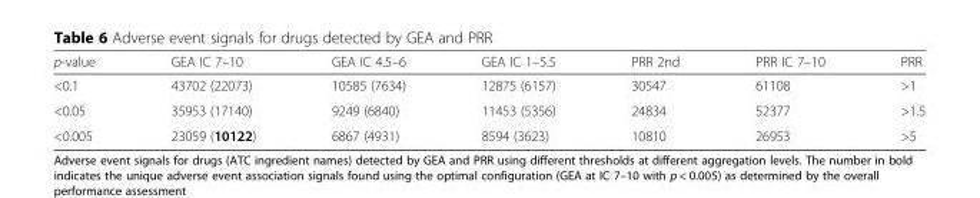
<table><thead><tr><td>p-value</td><td>GEA IC 7–10</td><td>GEA IC 4.5–6</td><td>GEA IC 1–5.5</td><td>PRR 2nd</td><td>PRR IC 7–10</td><td>PRR</td></tr></thead><tbody><tr><td>&lt;0.1</td><td>43702 (22073)</td><td>10585 (7634)</td><td>12875 (6157)</td><td>30547</td><td>61108</td><td>&gt;1</td></tr><tr><td>&lt;0.05</td><td>35953 (17140)</td><td>9249 (6840)</td><td>11453 (5356)</td><td>24834</td><td>52377</td><td>&gt;1.5</td></tr><tr><td>&lt;0.005</td><td>23059 (10122)</td><td>6867 (4931)</td><td>8594 (3623)</td><td>10810</td><td>26953</td><td>&gt;5</td></tr></tbody></table>